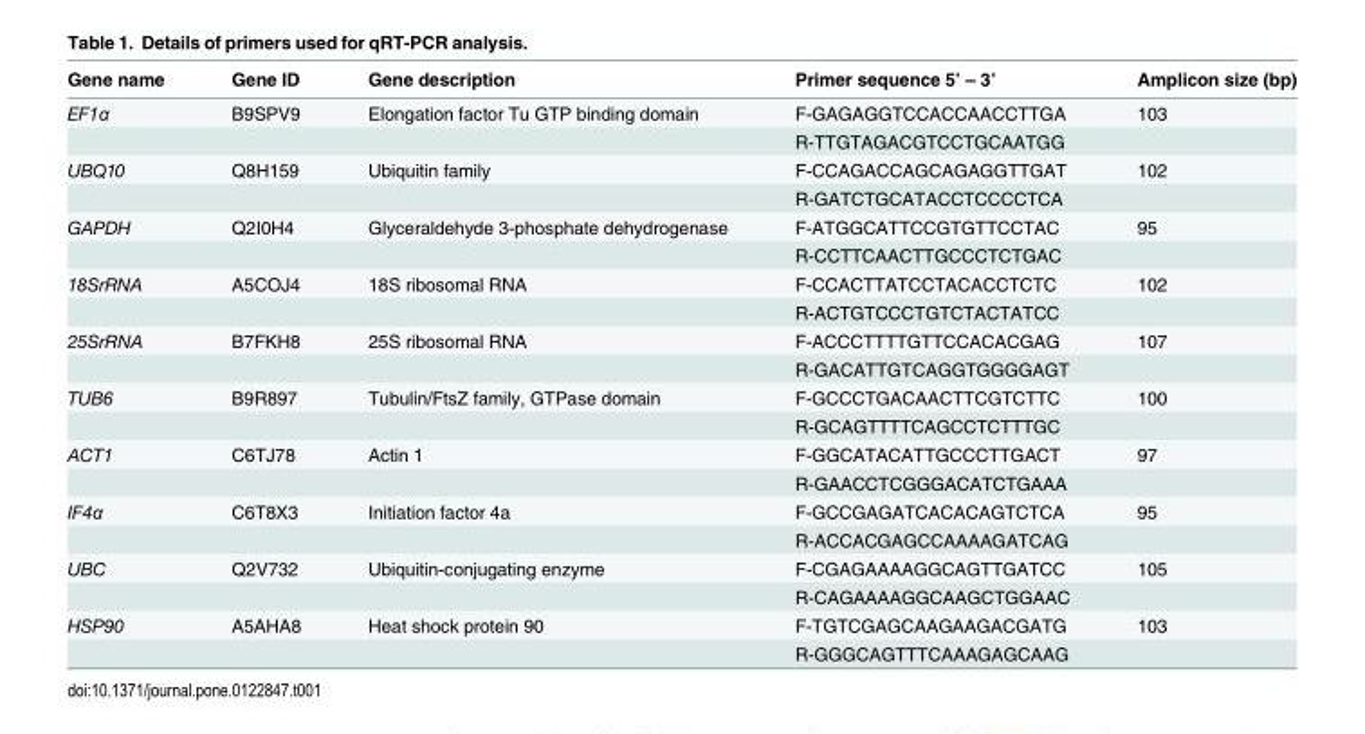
<table><thead><tr><td>Gene name</td><td>Gene ID</td><td>Gene description</td><td>Primer sequence 5’ – 3’</td><td>Amplicon size (bp)</td></tr></thead><tbody><tr><td>EF1α</td><td>B9SPV9</td><td>Elongation factor Tu GTP binding domain</td><td>F-GAGAGGTCCACCAACCTTGA</td><td>103</td></tr><tr><td colspan="3"></td><td>R-TTGTAGACGTCCTGCAATGG</td><td></td></tr><tr><td>UBQ10</td><td>Q8H159</td><td>Ubiquitin family</td><td>F-CCAGACCAGCAGAGGTTGAT</td><td>102</td></tr><tr><td colspan="3"></td><td>R-GATCTGCATACCTCCCCTCA</td><td></td></tr><tr><td>GAPDH</td><td>Q2I0H4</td><td>Glyceraldehyde 3-phosphate dehydrogenase</td><td>F-ATGGCATTCCGTGTTCCTAC</td><td>95</td></tr><tr><td colspan="3"></td><td>R-CCTTCAACTTGCCCTCTGAC</td><td></td></tr><tr><td>18SrRNA</td><td>A5COJ4</td><td>18S ribosomal RNA</td><td>F-CCACTTATCCTACACCTCTC</td><td>102</td></tr><tr><td colspan="3"></td><td>R-ACTGTCCCTGTCTACTATCC</td><td></td></tr><tr><td>25SrRNA</td><td>B7FKH8</td><td>25S ribosomal RNA</td><td>F-ACCCTTTTGTTCCACACGAG</td><td>107</td></tr><tr><td colspan="3"></td><td>R-GACATTGTCAGGTGGGGAGT</td><td></td></tr><tr><td>TUB6</td><td>B9R897</td><td>Tubulin/FtsZ family, GTPase domain</td><td>F-GCCCTGACAACTTCGTCTTC</td><td>100</td></tr><tr><td colspan="3"></td><td>R-GCAGTTTTCAGCCTCTTTGC</td><td></td></tr><tr><td>ACT1</td><td>C6TJ78</td><td>Actin 1</td><td>F-GGCATACATTGCCCTTGACT</td><td>97</td></tr><tr><td colspan="3"></td><td>R-GAACCTCGGGACATCTGAAA</td><td></td></tr><tr><td>IF4α</td><td>C6T8X3</td><td>Initiation factor 4a</td><td>F-GCCGAGATCACACAGTCTCA</td><td>95</td></tr><tr><td colspan="3"></td><td>R-ACCACGAGCCAAAAGATCAG</td><td></td></tr><tr><td>UBC</td><td>Q2V732</td><td>Ubiquitin-conjugating enzyme</td><td>F-CGAGAAAAGGCAGTTGATCC</td><td>105</td></tr><tr><td colspan="3"></td><td>R-CAGAAAAGGCAAGCTGGAAC</td><td></td></tr><tr><td>HSP90</td><td>A5AHA8</td><td>Heat shock protein 90</td><td>F-TGTCGAGCAAGAAGACGATG</td><td>103</td></tr><tr><td colspan="3"></td><td>R-GGGCAGTTTCAAAGAGCAAG</td><td></td></tr></tbody></table>